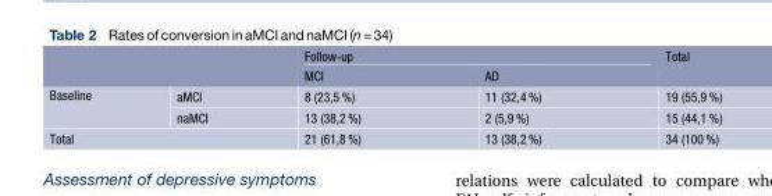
<table><thead><tr><td rowspan="2"></td><td rowspan="2"></td><td colspan="2">Follow-up</td><td rowspan="2">Total</td></tr><tr><td>MCI</td><td>AD</td></tr></thead><tbody><tr><td rowspan="2">Baseline</td><td>aMCI</td><td>8 (23,5 %)</td><td>11 (32,4 %)</td><td>19 (55,9 %)</td></tr><tr><td>naMCI</td><td>13 (38,2 %)</td><td>2 (5,9 %)</td><td>15 (44,1 %)</td></tr><tr><td colspan="2">Total</td><td>21 (61,8 %)</td><td>13 (38,2 %)</td><td>34 (100 %)</td></tr></tbody></table>